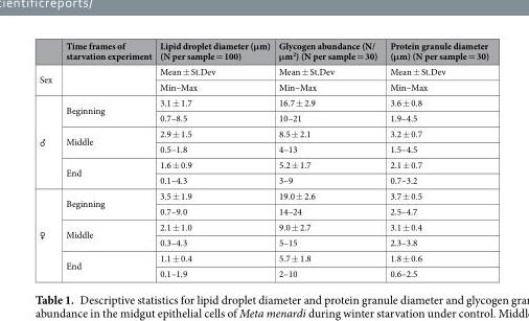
<table><thead><tr><td></td><td>Time frames of starvation experiment</td><td>Lipid droplet diameter (μm) (N per sample = 100)</td><td>Glycogen abundance (N/ μm<sup>2</sup>) (N per sample = 30)</td><td>Protein granule diameter (μm) (N per sample = 30)</td></tr></thead><tbody><tr><td rowspan="2">Sex</td><td rowspan="2"></td><td>Mean ± St.Dev</td><td>Mean ± St.Dev</td><td>Mean ± St.Dev</td></tr><tr><td>Min–Max</td><td>Min–Max</td><td>Min–Max</td></tr><tr><td rowspan="6">♂</td><td rowspan="2">Beginning</td><td>3.1 ± 1.7</td><td>16.7 ± 2.9</td><td>3.6 ± 0.8</td></tr><tr><td>0.7–8.5</td><td>10–21</td><td>1.9–4.5</td></tr><tr><td rowspan="2">Middle</td><td>2.9 ± 1.5</td><td>8.5 ± 2.1</td><td>3.2 ± 0.7</td></tr><tr><td>0.5–1.8</td><td>4–13</td><td>1.5–4.5</td></tr><tr><td rowspan="2">End</td><td>1.6 ± 0.9</td><td>5.2 ± 1.7</td><td>2.1 ± 0.7</td></tr><tr><td>0.1–4.3</td><td>3–9</td><td>0.7–3.2</td></tr><tr><td rowspan="6">♀</td><td rowspan="2">Beginning</td><td>3.5 ± 1.9</td><td>19.0 ± 2.6</td><td>3.7 ± 0.5</td></tr><tr><td>0.7–9.0</td><td>14–24</td><td>2.5–4.7</td></tr><tr><td rowspan="2">Middle</td><td>2.1 ± 1.0</td><td>9.0 ± 2.7</td><td>3.1 ± 0.4</td></tr><tr><td>0.3–4.3</td><td>5–15</td><td>2.3–3.8</td></tr><tr><td rowspan="2">End</td><td>1.1 ± 0.4</td><td>5.7 ± 1.8</td><td>1.8 ± 0.6</td></tr><tr><td>0.1–1.9</td><td>2–10</td><td>0.6–2.5</td></tr></tbody></table>